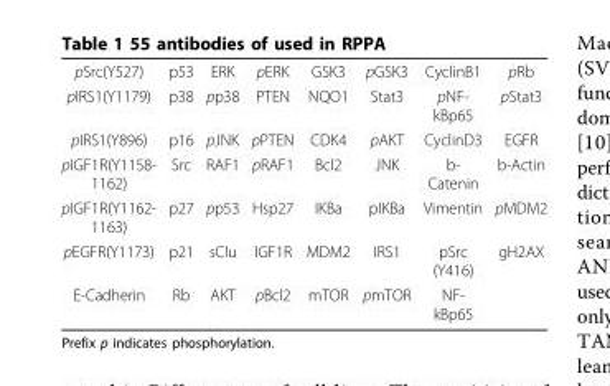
<table><tbody><tr><td>pSrc(Y527)</td><td>p53</td><td>ERK</td><td>pERK</td><td>GSK3</td><td>pGSK3</td><td>CyclinB1</td><td>pRb</td></tr><tr><td>pIRS1(Y1179)</td><td>p38</td><td>pp38</td><td>PTEN</td><td>NQO1</td><td>Stat3</td><td>pNF- kBp65</td><td>pStat3</td></tr><tr><td>pIRS1(Y896)</td><td>p16</td><td>pJNK</td><td>pPTEN</td><td>CDK4</td><td>pAKT</td><td>CyclinD3</td><td>EGFR</td></tr><tr><td>pIGF1R(Y1158- 1162)</td><td>Src</td><td>RAF1</td><td>pRAF1</td><td>Bcl2</td><td>JNK</td><td>b- Catenin</td><td>b-Actin</td></tr><tr><td>pIGF1R(Y1162- 1163)</td><td>p27</td><td>pp53</td><td>Hsp27</td><td>IKBa</td><td>pIKBa</td><td>Vimentin</td><td>pMDM2</td></tr><tr><td>pEGFR(Y1173)</td><td>p21</td><td>sClu</td><td>IGF1R</td><td>MDM2</td><td>IRS1</td><td>pSrc (Y416)</td><td>gH2AX</td></tr><tr><td>E-Cadherin</td><td>Rb</td><td>AKT</td><td>pBcl2</td><td>mTOR</td><td>pmTOR</td><td>NF- kBp65</td><td></td></tr></tbody></table>